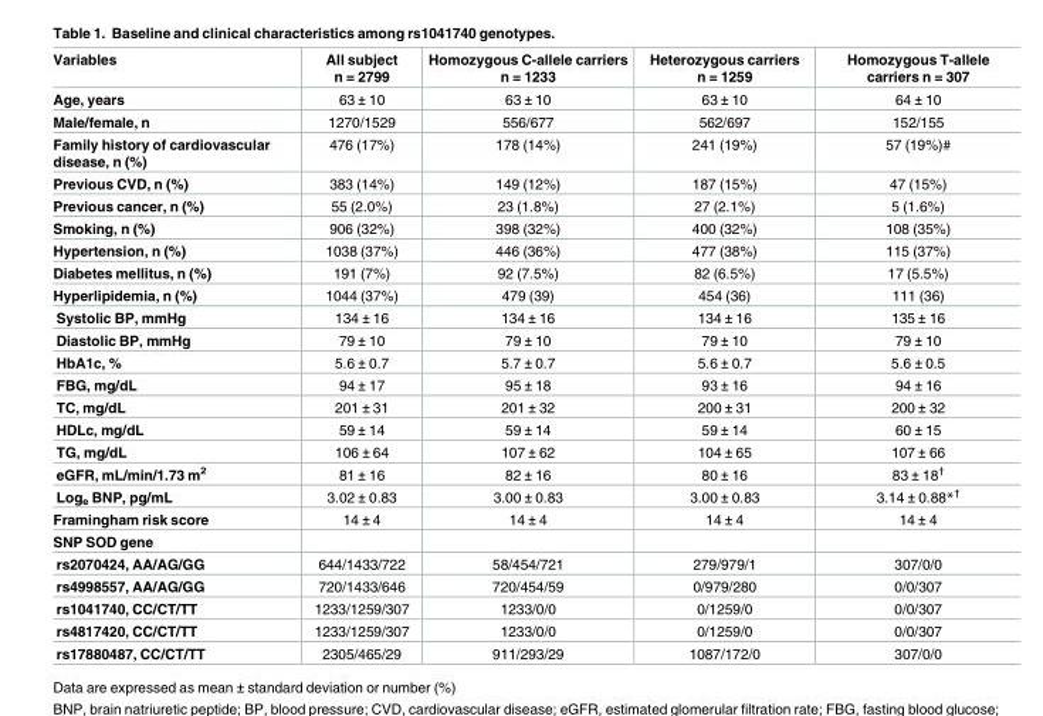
<table><thead><tr><td>Variables</td><td>All subject n = 2799</td><td>Homozygous C-allele carriers n = 1233</td><td>Heterozygous carriers n = 1259</td><td>Homozygous T-allele carriers n = 307</td></tr></thead><tbody><tr><td>Age, years</td><td>63 ± 10</td><td>63 ± 10</td><td>63 ± 10</td><td>64 ± 10</td></tr><tr><td>Male/female, n</td><td>1270/1529</td><td>556/677</td><td>562/697</td><td>152/155</td></tr><tr><td>Family history of cardiovascular disease, n (%)</td><td>476 (17%)</td><td>178 (14%)</td><td>241 (19%)</td><td>57 (19%)#</td></tr><tr><td>Previous CVD, n (%)</td><td>383 (14%)</td><td>149 (12%)</td><td>187 (15%)</td><td>47 (15%)</td></tr><tr><td>Previous cancer, n (%)</td><td>55 (2.0%)</td><td>23 (1.8%)</td><td>27 (2.1%)</td><td>5 (1.6%)</td></tr><tr><td>Smoking, n (%)</td><td>906 (32%)</td><td>398 (32%)</td><td>400 (32%)</td><td>108 (35%)</td></tr><tr><td>Hypertension, n (%)</td><td>1038 (37%)</td><td>446 (36%)</td><td>477 (38%)</td><td>115 (37%)</td></tr><tr><td>Diabetes mellitus, n (%)</td><td>191 (7%)</td><td>92 (7.5%)</td><td>82 (6.5%)</td><td>17 (5.5%)</td></tr><tr><td>Hyperlipidemia, n (%)</td><td>1044 (37%)</td><td>479 (39)</td><td>454 (36)</td><td>111 (36)</td></tr><tr><td>Systolic BP, mmHg</td><td>134 ± 16</td><td>134 ± 16</td><td>134 ± 16</td><td>135 ± 16</td></tr><tr><td>Diastolic BP, mmHg</td><td>79 ± 10</td><td>79 ± 10</td><td>79 ± 10</td><td>79 ± 10</td></tr><tr><td>HbA1c, %</td><td>5.6 ± 0.7</td><td>5.7 ± 0.7</td><td>5.6 ± 0.7</td><td>5.6 ± 0.5</td></tr><tr><td>FBG, mg/dL</td><td>94 ± 17</td><td>95 ± 18</td><td>93 ± 16</td><td>94 ± 16</td></tr><tr><td>TC, mg/dL</td><td>201 ± 31</td><td>201 ± 32</td><td>200 ± 31</td><td>200 ± 32</td></tr><tr><td>HDLc, mg/dL</td><td>59 ± 14</td><td>59 ± 14</td><td>59 ± 14</td><td>60 ± 15</td></tr><tr><td>TG, mg/dL</td><td>106 ± 64</td><td>107 ± 62</td><td>104 ± 65</td><td>107 ± 66</td></tr><tr><td>eGFR, mL/min/1.73 m<sup>2</sup></td><td>81 ± 16</td><td>82 ± 16</td><td>80 ± 16</td><td>83 ± 18<sup>†</sup></td></tr><tr><td>Log<sub>e</sub> BNP, pg/mL</td><td>3.02 ± 0.83</td><td>3.00 ± 0.83</td><td>3.00 ± 0.83</td><td>3.14 ± 0.88*<sup>†</sup></td></tr><tr><td>Framingham risk score</td><td>14 ± 4</td><td>14 ± 4</td><td>14 ± 4</td><td>14 ± 4</td></tr><tr><td colspan="5">SNP SOD gene</td></tr><tr><td>rs2070424, AA/AG/GG</td><td>644/1433/722</td><td>58/454/721</td><td>279/979/1</td><td>307/0/0</td></tr><tr><td>rs4998557, AA/AG/GG</td><td>720/1433/646</td><td>720/454/59</td><td>0/979/280</td><td>0/0/307</td></tr><tr><td>rs1041740, CC/CT/TT</td><td>1233/1259/307</td><td>1233/0/0</td><td>0/1259/0</td><td>0/0/307</td></tr><tr><td>rs4817420, CC/CT/TT</td><td>1233/1259/307</td><td>1233/0/0</td><td>0/1259/0</td><td>0/0/307</td></tr><tr><td>rs17880487, CC/CT/TT</td><td>2305/465/29</td><td>911/293/29</td><td>1087/172/0</td><td>307/0/0</td></tr></tbody></table>